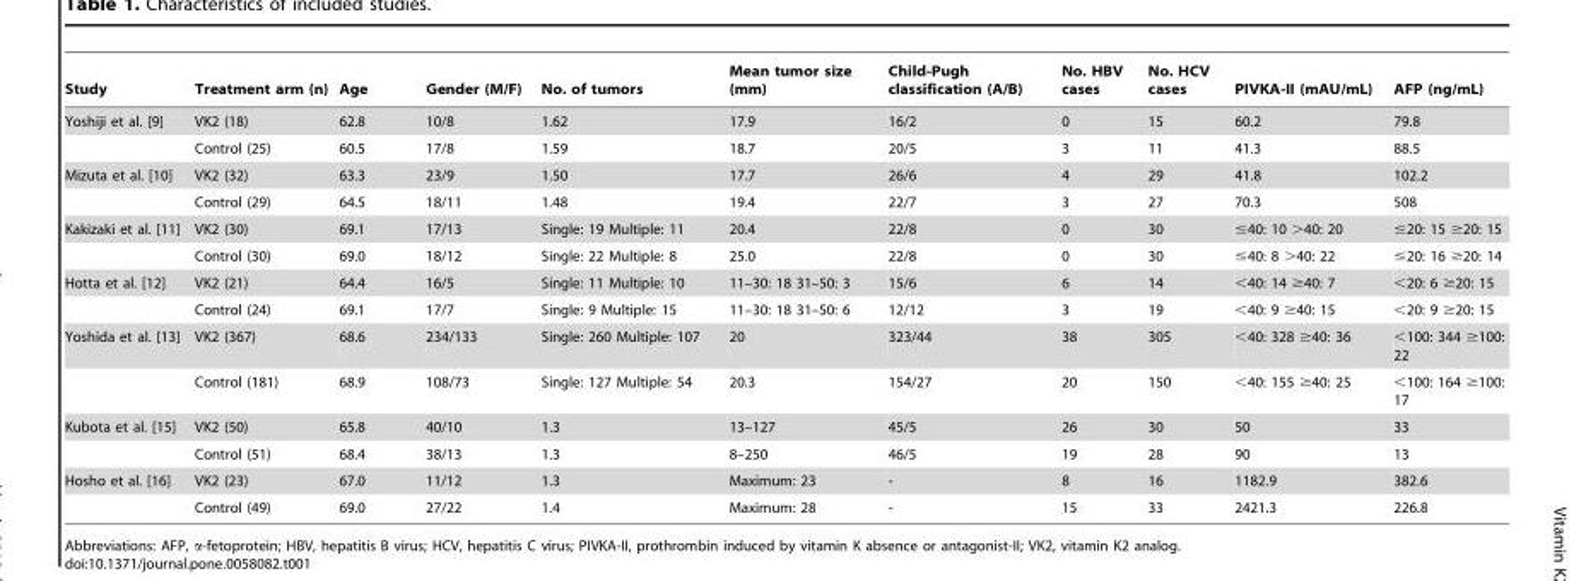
<table><thead><tr><td>Study</td><td>Treatment arm (n)</td><td>Age</td><td>Gender (M/F)</td><td>No. of tumors</td><td>Mean tumor size (mm)</td><td>Child-Pugh classification (A/B)</td><td>No. HBV cases</td><td>No. HCV cases</td><td>PIVKA-II (mAU/mL)</td><td>AFP (ng/mL)</td></tr></thead><tbody><tr><td rowspan="2">Yoshiji et al. [9]</td><td>VK2 (18)</td><td>62.8</td><td>10/8</td><td>1.62</td><td>17.9</td><td>16/2</td><td>0</td><td>15</td><td>60.2</td><td>79.8</td></tr><tr><td>Control (25)</td><td>60.5</td><td>17/8</td><td>1.59</td><td>18.7</td><td>20/5</td><td>3</td><td>11</td><td>41.3</td><td>88.5</td></tr><tr><td rowspan="2">Mizuta et al. [10]</td><td>VK2 (32)</td><td>63.3</td><td>23/9</td><td>1.50</td><td>17.7</td><td>26/6</td><td>4</td><td>29</td><td>41.8</td><td>102.2</td></tr><tr><td>Control (29)</td><td>64.5</td><td>18/11</td><td>1.48</td><td>19.4</td><td>22/7</td><td>3</td><td>27</td><td>70.3</td><td>508</td></tr><tr><td rowspan="2">Kakizaki et al. [11]</td><td>VK2 (30)</td><td>69.1</td><td>17/13</td><td>Single: 19 Multiple: 11</td><td>20.4</td><td>22/8</td><td>0</td><td>30</td><td>≤40: 10 &gt;40: 20</td><td>≤20: 15 ≥20: 15</td></tr><tr><td>Control (30)</td><td>69.0</td><td>18/12</td><td>Single: 22 Multiple: 8</td><td>25.0</td><td>22/8</td><td>0</td><td>30</td><td>≤40: 8 &gt;40: 22</td><td>≤20: 16 ≥20: 14</td></tr><tr><td rowspan="2">Hotta et al. [12]</td><td>VK2 (21)</td><td>64.4</td><td>16/5</td><td>Single: 11 Multiple: 10</td><td>11–30: 18 31–50: 3</td><td>15/6</td><td>6</td><td>14</td><td>&lt;40: 14 ≥40: 7</td><td>&lt;20: 6 ≥20: 15</td></tr><tr><td>Control (24)</td><td>69.1</td><td>17/7</td><td>Single: 9 Multiple: 15</td><td>11–30: 18 31–50: 6</td><td>12/12</td><td>3</td><td>19</td><td>&lt;40: 9 ≥40: 15</td><td>&lt;20: 9 ≥20: 15</td></tr><tr><td rowspan="2">Yoshida et al. [13]</td><td>VK2 (367)</td><td>68.6</td><td>234/133</td><td>Single: 260 Multiple: 107</td><td>20</td><td>323/44</td><td>38</td><td>305</td><td>&lt;40: 328 ≥40: 36</td><td>&lt;100: 344 ≥100: 22</td></tr><tr><td>Control (181)</td><td>68.9</td><td>108/73</td><td>Single: 127 Multiple: 54</td><td>20.3</td><td>154/27</td><td>20</td><td>150</td><td>&lt;40: 155 ≥40: 25</td><td>&lt;100: 164 ≥100: 17</td></tr><tr><td rowspan="2">Kubota et al. [15]</td><td>VK2 (50)</td><td>65.8</td><td>40/10</td><td>1.3</td><td>13–127</td><td>45/5</td><td>26</td><td>30</td><td>50</td><td>33</td></tr><tr><td>Control (51)</td><td>68.4</td><td>38/13</td><td>1.3</td><td>8–250</td><td>46/5</td><td>19</td><td>28</td><td>90</td><td>13</td></tr><tr><td rowspan="2">Hosho et al. [16]</td><td>VK2 (23)</td><td>67.0</td><td>11/12</td><td>1.3</td><td>Maximum: 23</td><td>-</td><td>8</td><td>16</td><td>1182.9</td><td>382.6</td></tr><tr><td>Control (49)</td><td>69.0</td><td>27/22</td><td>1.4</td><td>Maximum: 28</td><td>-</td><td>15</td><td>33</td><td>2421.3</td><td>226.8</td></tr></tbody></table>